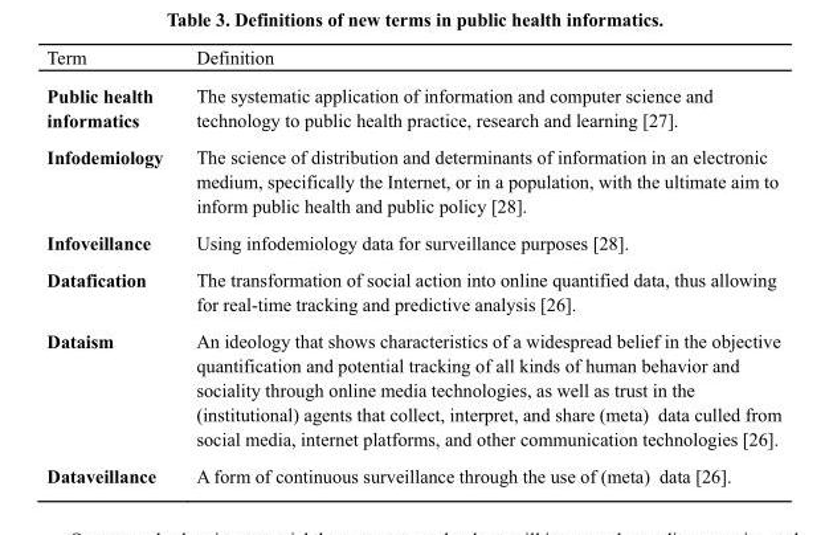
<table><thead><tr><td>Term</td><td>Definition</td></tr></thead><tbody><tr><td>Public health informatics</td><td>The systematic application of information and computer science and technology to public health practice, research and learning [27].</td></tr><tr><td>Infodemiology</td><td>The science of distribution and determinants of information in an electronic medium, specifically the Internet, or in a population, with the ultimate aim to inform public health and public policy [28].</td></tr><tr><td>Infoveillance</td><td>Using infodemiology data for surveillance purposes [28].</td></tr><tr><td>Datafication</td><td>The transformation of social action into online quantified data, thus allowing for real-time tracking and predictive analysis [26].</td></tr><tr><td>Dataism</td><td>An ideology that shows characteristics of a widespread belief in the objective quantification and potential tracking of all kinds of human behavior and sociality through online media technologies, as well as trust in the (institutional) agents that collect, interpret, and share (meta) data culled from social media, internet platforms, and other communication technologies [26].</td></tr><tr><td>Dataveillance</td><td>A form of continuous surveillance through the use of (meta) data [26].</td></tr></tbody></table>